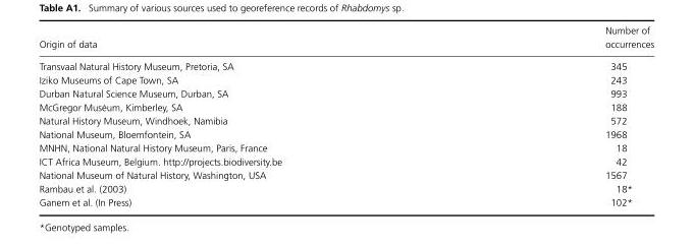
<table><thead><tr><td>Origin of data</td><td>occurrences</td></tr></thead><tbody><tr><td>Transvaal Natural History Museum, Pretoria, SA</td><td>345</td></tr><tr><td>Iziko Museums of Cape Town, SA</td><td>243</td></tr><tr><td>Durban Natural Science Museum, Durban, SA</td><td>993</td></tr><tr><td>McGregor Mus´eum, Kimberley, SA</td><td>188</td></tr><tr><td>Natural History Museum, Windhoek, Namibia</td><td>572</td></tr><tr><td>National Museum, Bloemfontein, SA</td><td>1968</td></tr><tr><td>MNHN, National Natural History Museum, Paris, France</td><td>18</td></tr><tr><td>ICT Africa Museum, Belgium. http://projects.biodiversity.be</td><td>42</td></tr><tr><td>National Museum of Natural History, Washington, USA</td><td>1567</td></tr><tr><td>Rambau et al. (2003)</td><td>18*</td></tr><tr><td>Ganem et al. (In Press)</td><td>102*</td></tr></tbody></table>